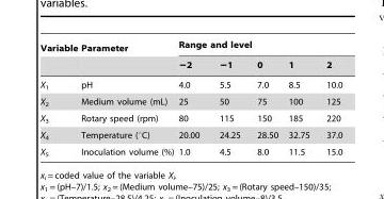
<table><thead><tr><td rowspan="2">Variable</td><td rowspan="2">Parameter</td><td colspan="5">Range and level</td></tr><tr><td>−2</td><td>−1</td><td>0</td><td>1</td><td>2</td></tr></thead><tbody><tr><td>X<sub>1</sub></td><td>pH</td><td>4.0</td><td>5.5</td><td>7.0</td><td>8.5</td><td>10.0</td></tr><tr><td>X<sub>2</sub></td><td>Medium volume (mL)</td><td>25</td><td>50</td><td>75</td><td>100</td><td>125</td></tr><tr><td>X<sub>3</sub></td><td>Rotary speed (rpm)</td><td>80</td><td>115</td><td>150</td><td>185</td><td>220</td></tr><tr><td>X<sub>4</sub></td><td>Temperature (°C)</td><td>20.00</td><td>24.25</td><td>28.50</td><td>32.75</td><td>37.0</td></tr><tr><td>X<sub>5</sub></td><td>Inoculation volume (%)</td><td>1.0</td><td>4.5</td><td>8.0</td><td>11.5</td><td>15.0</td></tr></tbody></table>